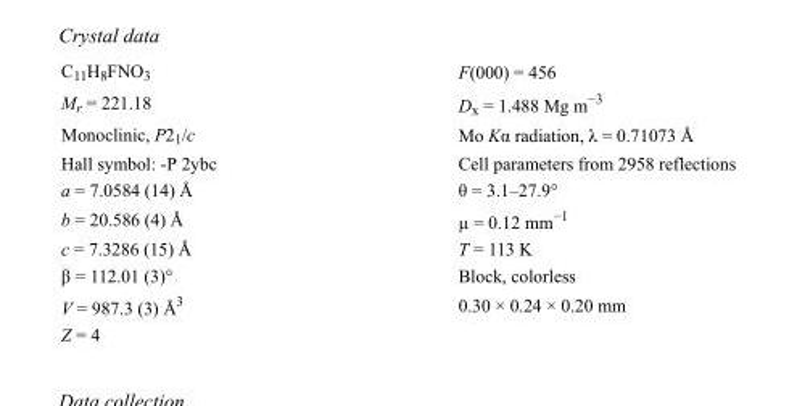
<table><tbody><tr><td>C<sub>11</sub>H<sub>8</sub>FNO<sub>3</sub></td><td>F(000) = 456</td></tr><tr><td>M<sub>r</sub> = 221.18</td><td>D<sub>x</sub> = 1.488 Mg m<sup>−3</sup></td></tr><tr><td>Monoclinic, P2<sub>1</sub>/c</td><td>Mo Kα radiation, λ = 0.71073 Å</td></tr><tr><td>Hall symbol: -P 2ybc</td><td>Cell parameters from 2958 reflections</td></tr><tr><td>a = 7.0584 (14) Å</td><td>θ = 3.1–27.9°</td></tr><tr><td>b = 20.586 (4) Å</td><td>µ = 0.12 mm<sup>−1</sup></td></tr><tr><td>c = 7.3286 (15) Å</td><td>T = 113 K</td></tr><tr><td>β = 112.01 (3)°</td><td>Block, colorless</td></tr><tr><td>V = 987.3 (3) Å<sup>3</sup></td><td>0.30 × 0.24 × 0.20 mm</td></tr><tr><td>Z = 4</td><td></td></tr></tbody></table>